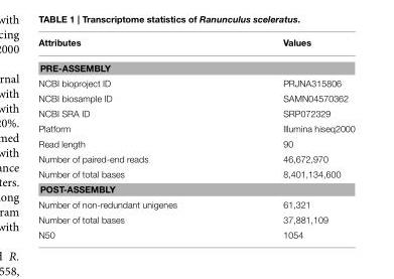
<table><thead><tr><td>Attributes</td><td>Values</td></tr></thead><tbody><tr><td colspan="2">PRE-ASSEMBLY</td></tr><tr><td>NCBI bioproject ID</td><td>PRJNA315806</td></tr><tr><td>NCBI biosample ID</td><td>SAMN04570362</td></tr><tr><td>NCBI SRA ID</td><td>SRP072329</td></tr><tr><td>Platform</td><td>Illumina hiseq2000</td></tr><tr><td>Read length</td><td>90</td></tr><tr><td>Number of paired-end reads</td><td>46,672,970</td></tr><tr><td>Number of total bases</td><td>8,401,134,600</td></tr><tr><td colspan="2">POST-ASSEMBLY</td></tr><tr><td>Number of non-redundant unigenes</td><td>61,321</td></tr><tr><td>Number of total bases</td><td>37,881,109</td></tr><tr><td>N50</td><td>1054</td></tr></tbody></table>